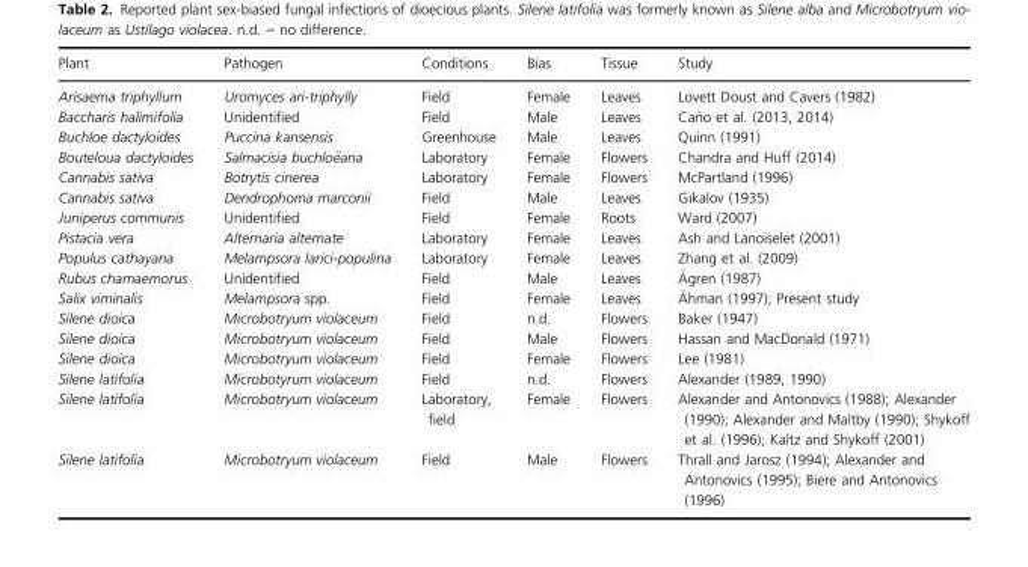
<table><thead><tr><td>Plant</td><td>Pathogen</td><td>Conditions</td><td>Bias</td><td>Tissue</td><td>Study</td></tr></thead><tbody><tr><td>Arisaema triphyllum</td><td>Uromyces ari-triphylly</td><td>Field</td><td>Female</td><td>Leaves</td><td>Lovett Doust and Cavers (1982)</td></tr><tr><td>Baccharis halimifolia</td><td>Unidentified</td><td>Field</td><td>Male</td><td>Leaves</td><td>Ca~no et al. (2013, 2014)</td></tr><tr><td>Buchloe dactyloides</td><td>Puccina kansensis</td><td>Greenhouse</td><td>Male</td><td>Leaves</td><td>Quinn (1991)</td></tr><tr><td>Bouteloua dactyloides</td><td>Salmacisia buchlo€eana</td><td>Laboratory</td><td>Female</td><td>Flowers</td><td>Chandra and Huff (2014)</td></tr><tr><td>Cannabis sativa</td><td>Botrytis cinerea</td><td>Laboratory</td><td>Female</td><td>Flowers</td><td>McPartland (1996)</td></tr><tr><td>Cannabis sativa</td><td>Dendrophoma marconii</td><td>Field</td><td>Male</td><td>Leaves</td><td>Gikalov (1935)</td></tr><tr><td>Juniperus communis</td><td>Unidentified</td><td>Field</td><td>Female</td><td>Roots</td><td>Ward (2007)</td></tr><tr><td>Pistacia vera</td><td>Alternaria alternate</td><td>Laboratory</td><td>Female</td><td>Leaves</td><td>Ash and Lanoiselet (2001)</td></tr><tr><td>Populus cathayana</td><td>Melampsora larici-populina</td><td>Laboratory</td><td>Female</td><td>Leaves</td><td>Zhang et al. (2009)</td></tr><tr><td>Rubus chamaemorus</td><td>Unidentified</td><td>Field</td><td>Male</td><td>Leaves</td><td>�Agren (1987)</td></tr><tr><td>Salix viminalis</td><td>Melampsora spp.</td><td>Field</td><td>Female</td><td>Leaves</td><td>�Ahman (1997); Present study</td></tr><tr><td>Silene dioica</td><td>Microbotryum violaceum</td><td>Field</td><td>n.d.</td><td>Flowers</td><td>Baker (1947)</td></tr><tr><td>Silene dioica</td><td>Microbotryum violaceum</td><td>Field</td><td>Male</td><td>Flowers</td><td>Hassan and MacDonald (1971)</td></tr><tr><td>Silene dioica</td><td>Microbotryum violaceum</td><td>Field</td><td>Female</td><td>Flowers</td><td>Lee (1981)</td></tr><tr><td>Silene latifolia</td><td>Microbotyrum violaceum</td><td>Field</td><td>n.d.</td><td>Flowers</td><td>Alexander (1989, 1990)</td></tr><tr><td>Silene latifolia</td><td>Microbotryum violaceum</td><td>Laboratory, field</td><td>Female</td><td>Flowers</td><td>Alexander and Antonovics (1988); Alexander (1990); Alexander and Maltby (1990); Shykoff et al. (1996); Kaltz and Shykoff (2001)</td></tr><tr><td>Silene latifolia</td><td>Microbotryum violaceum</td><td>Field</td><td>Male</td><td>Flowers</td><td>Thrall and Jarosz (1994); Alexander and Antonovics (1995); Biere and Antonovics (1996)</td></tr></tbody></table>